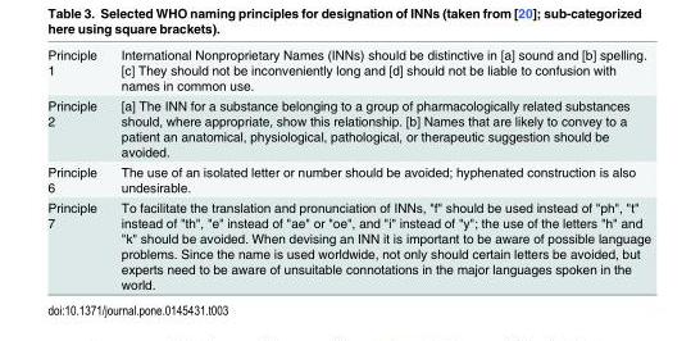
<table><tbody><tr><td>Principle 1</td><td>International Nonproprietary Names (INNs) should be distinctive in [a] sound and [b] spelling. [c] They should not be inconveniently long and [d] should not be liable to confusion with names in common use.</td></tr><tr><td>Principle 2</td><td>[a] The INN for a substance belonging to a group of pharmacologically related substances should, where appropriate, show this relationship. [b] Names that are likely to convey to a patient an anatomical, physiological, pathological, or therapeutic suggestion should be avoided.</td></tr><tr><td>Principle 6</td><td>The use of an isolated letter or number should be avoided; hyphenated construction is also undesirable.</td></tr><tr><td>Principle 7</td><td>To facilitate the translation and pronunciation of INNs, &quot;f&quot; should be used instead of &quot;ph&quot;, &quot;t&quot; instead of &quot;th&quot;, &quot;e&quot; instead of &quot;ae&quot; or &quot;oe&quot;, and &quot;i&quot; instead of &quot;y&quot;; the use of the letters &quot;h&quot; and &quot;k&quot; should be avoided. When devising an INN it is important to be aware of possible language problems. Since the name is used worldwide, not only should certain letters be avoided, but experts need to be aware of unsuitable connotations in the major languages spoken in the world.</td></tr></tbody></table>